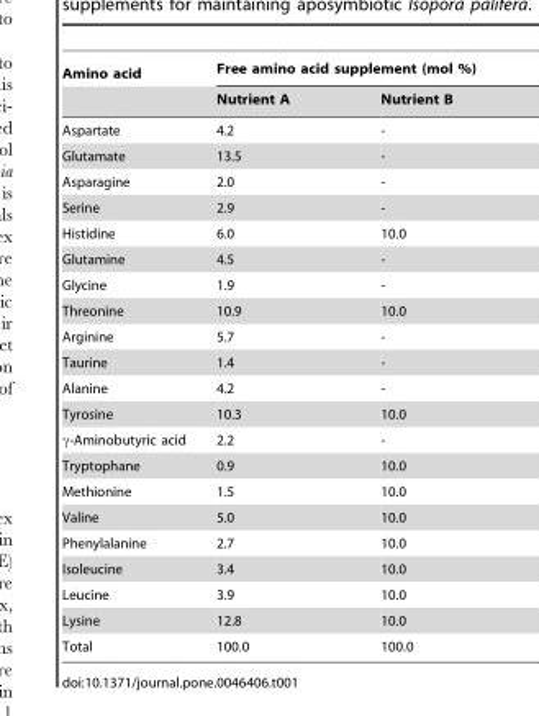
<table><thead><tr><td rowspan="2">Amino acid</td><td colspan="2">Free amino acid supplement (mol %)</td></tr><tr><td>Nutrient A</td><td>Nutrient B</td></tr></thead><tbody><tr><td>Aspartate</td><td>4.2</td><td>-</td></tr><tr><td>Glutamate</td><td>13.5</td><td>-</td></tr><tr><td>Asparagine</td><td>2.0</td><td>-</td></tr><tr><td>Serine</td><td>2.9</td><td>-</td></tr><tr><td>Histidine</td><td>6.0</td><td>10.0</td></tr><tr><td>Glutamine</td><td>4.5</td><td>-</td></tr><tr><td>Glycine</td><td>1.9</td><td>-</td></tr><tr><td>Threonine</td><td>10.9</td><td>10.0</td></tr><tr><td>Arginine</td><td>5.7</td><td>-</td></tr><tr><td>Taurine</td><td>1.4</td><td>-</td></tr><tr><td>Alanine</td><td>4.2</td><td>-</td></tr><tr><td>Tyrosine</td><td>10.3</td><td>10.0</td></tr><tr><td>γ-Aminobutyric acid</td><td>2.2</td><td>-</td></tr><tr><td>Tryptophane</td><td>0.9</td><td>10.0</td></tr><tr><td>Methionine</td><td>1.5</td><td>10.0</td></tr><tr><td>Valine</td><td>5.0</td><td>10.0</td></tr><tr><td>Phenylalanine</td><td>2.7</td><td>10.0</td></tr><tr><td>Isoleucine</td><td>3.4</td><td>10.0</td></tr><tr><td>Leucine</td><td>3.9</td><td>10.0</td></tr><tr><td>Lysine</td><td>12.8</td><td>10.0</td></tr><tr><td>Total</td><td>100.0</td><td>100.0</td></tr></tbody></table>